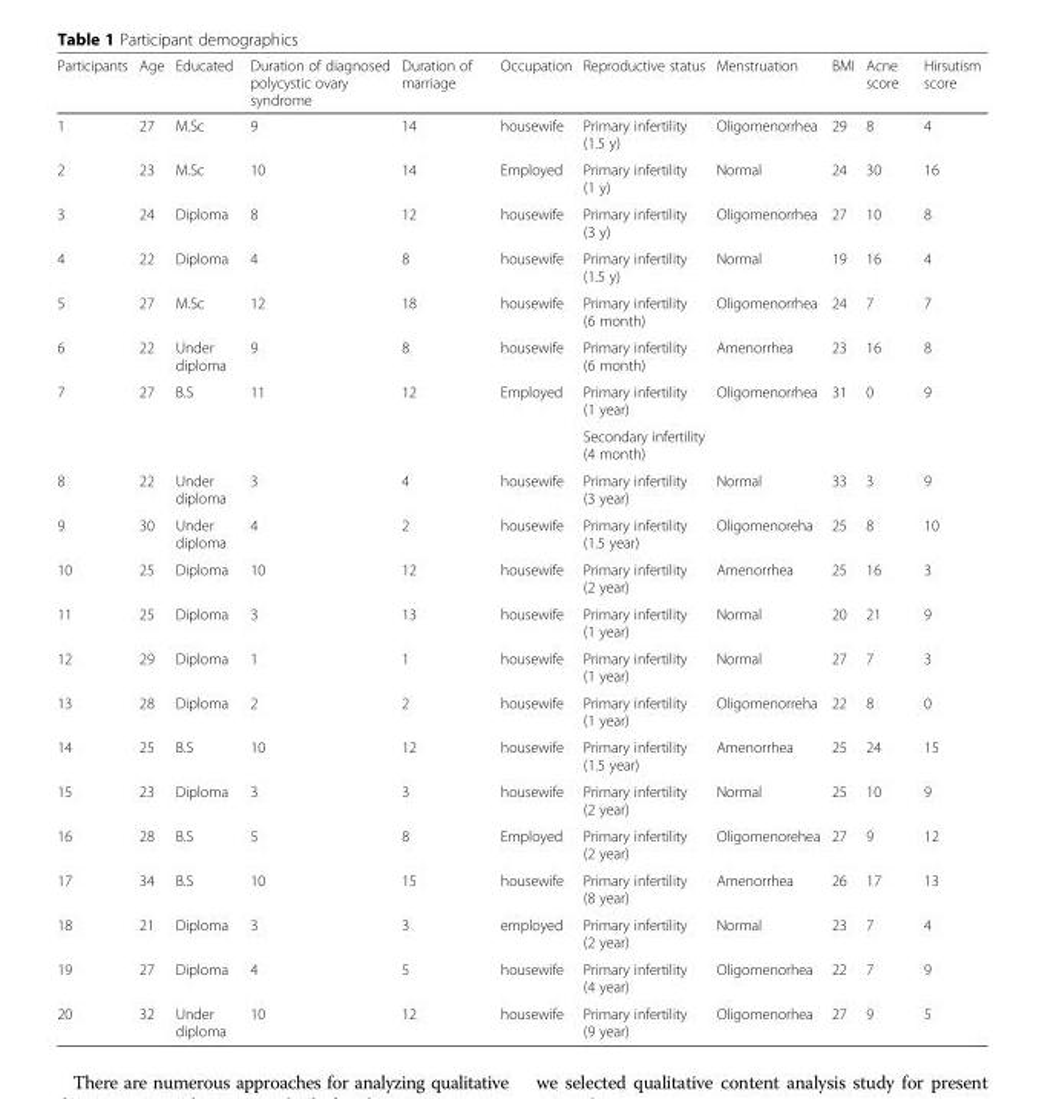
<table><thead><tr><td>Participants</td><td>Age</td><td>Educated</td><td>Duration of diagnosed polycystic ovary syndrome</td><td>Duration of marriage</td><td>Occupation</td><td>Reproductive status</td><td>Menstruation</td><td>BMI</td><td>Acne score</td><td>Hirsutism score</td></tr></thead><tbody><tr><td>1</td><td>27</td><td>M.Sc</td><td>9</td><td>14</td><td>housewife</td><td>Primary infertility (1.5 y)</td><td>Oligomenorrhea</td><td>29</td><td>8</td><td>4</td></tr><tr><td>2</td><td>23</td><td>M.Sc</td><td>10</td><td>14</td><td>Employed</td><td>Primary infertility (1 y)</td><td>Normal</td><td>24</td><td>30</td><td>16</td></tr><tr><td>3</td><td>24</td><td>Diploma</td><td>8</td><td>12</td><td>housewife</td><td>Primary infertility (3 y)</td><td>Oligomenorrhea</td><td>27</td><td>10</td><td>8</td></tr><tr><td>4</td><td>22</td><td>Diploma</td><td>4</td><td>8</td><td>housewife</td><td>Primary infertility (1.5 y)</td><td>Normal</td><td>19</td><td>16</td><td>4</td></tr><tr><td>5</td><td>27</td><td>M.Sc</td><td>12</td><td>18</td><td>housewife</td><td>Primary infertility (6 month)</td><td>Oligomenorrhea</td><td>24</td><td>7</td><td>7</td></tr><tr><td>6</td><td>22</td><td>Under diploma</td><td>9</td><td>8</td><td>housewife</td><td>Primary infertility (6 month)</td><td>Amenorrhea</td><td>23</td><td>16</td><td>8</td></tr><tr><td rowspan="2">7</td><td rowspan="2">27</td><td rowspan="2">B.S</td><td rowspan="2">11</td><td rowspan="2">12</td><td rowspan="2">Employed</td><td>Primary infertility (1 year)</td><td rowspan="2">Oligomenorrhea</td><td rowspan="2">31</td><td rowspan="2">0</td><td rowspan="2">9</td></tr><tr><td>Secondary infertility (4 month)</td></tr><tr><td>8</td><td>22</td><td>Under diploma</td><td>3</td><td>4</td><td>housewife</td><td>Primary infertility (3 year)</td><td>Normal</td><td>33</td><td>3</td><td>9</td></tr><tr><td>9</td><td>30</td><td>Under diploma</td><td>4</td><td>2</td><td>housewife</td><td>Primary infertility (1.5 year)</td><td>Oligomenoreha</td><td>25</td><td>8</td><td>10</td></tr><tr><td>10</td><td>25</td><td>Diploma</td><td>10</td><td>12</td><td>housewife</td><td>Primary infertility (2 year)</td><td>Amenorrhea</td><td>25</td><td>16</td><td>3</td></tr><tr><td>11</td><td>25</td><td>Diploma</td><td>3</td><td>13</td><td>housewife</td><td>Primary infertility (1 year)</td><td>Normal</td><td>20</td><td>21</td><td>9</td></tr><tr><td>12</td><td>29</td><td>Diploma</td><td>1</td><td>1</td><td>housewife</td><td>Primary infertility (1 year)</td><td>Normal</td><td>27</td><td>7</td><td>3</td></tr><tr><td>13</td><td>28</td><td>Diploma</td><td>2</td><td>2</td><td>housewife</td><td>Primary infertility (1 year)</td><td>Oligomenorreha</td><td>22</td><td>8</td><td>0</td></tr><tr><td>14</td><td>25</td><td>B.S</td><td>10</td><td>12</td><td>housewife</td><td>Primary infertility (1.5 year)</td><td>Amenorrhea</td><td>25</td><td>24</td><td>15</td></tr><tr><td>15</td><td>23</td><td>Diploma</td><td>3</td><td>3</td><td>housewife</td><td>Primary infertility (2 year)</td><td>Normal</td><td>25</td><td>10</td><td>9</td></tr><tr><td>16</td><td>28</td><td>B.S</td><td>5</td><td>8</td><td>Employed</td><td>Primary infertility (2 year)</td><td>Oligomenorehea</td><td>27</td><td>9</td><td>12</td></tr><tr><td>17</td><td>34</td><td>B.S</td><td>10</td><td>15</td><td>housewife</td><td>Primary infertility (8 year)</td><td>Amenorrhea</td><td>26</td><td>17</td><td>13</td></tr><tr><td>18</td><td>21</td><td>Diploma</td><td>3</td><td>3</td><td>employed</td><td>Primary infertility (2 year)</td><td>Normal</td><td>23</td><td>7</td><td>4</td></tr><tr><td>19</td><td>27</td><td>Diploma</td><td>4</td><td>5</td><td>housewife</td><td>Primary infertility (4 year)</td><td>Oligomenorhea</td><td>22</td><td>7</td><td>9</td></tr><tr><td>20</td><td>32</td><td>Under diploma</td><td>10</td><td>12</td><td>housewife</td><td>Primary infertility (9 year)</td><td>Oligomenorhea</td><td>27</td><td>9</td><td>5</td></tr></tbody></table>